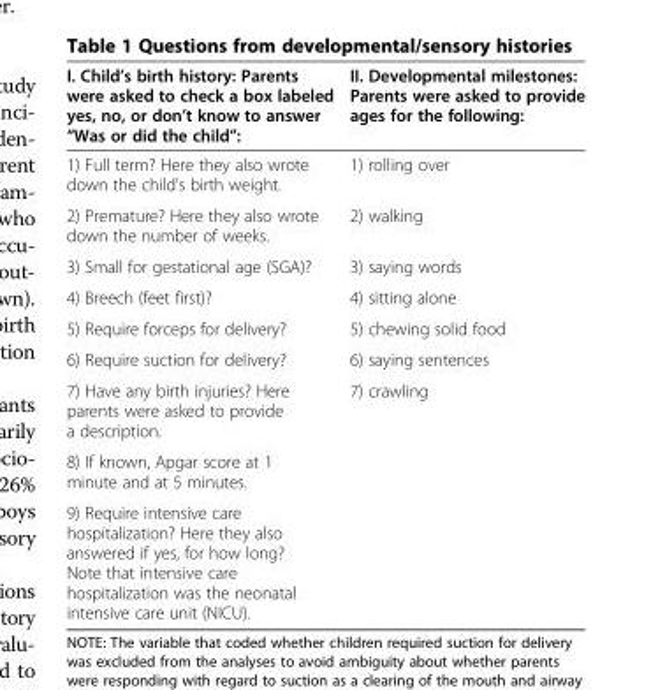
<table><thead><tr><td>I. Child’s birth history: Parents were asked to check a box labeled yes, no, or don’t know to answer “Was or did the child”:</td><td>II. Developmental milestones: Parents were asked to provide ages for the following:</td></tr></thead><tbody><tr><td>1) Full term? Here they also wrote down the child’s birth weight.</td><td>1) rolling over</td></tr><tr><td>2) Premature? Here they also wrote down the number of weeks.</td><td>2) walking</td></tr><tr><td>3) Small for gestational age (SGA)?</td><td>3) saying words</td></tr><tr><td>4) Breech (feet first)?</td><td>4) sitting alone</td></tr><tr><td>5) Require forceps for delivery?</td><td>5) chewing solid food</td></tr><tr><td>6) Require suction for delivery?</td><td>6) saying sentences</td></tr><tr><td>7) Have any birth injuries? Here parents were asked to provide a description.</td><td>7) crawling</td></tr><tr><td colspan="2">8) If known, Apgar score at 1 minute and at 5 minutes.</td></tr><tr><td>9) Require intensive care hospitalization? Here they also answered if yes, for how long? Note that intensive care hospitalization was the neonatal intensive care unit (NICU).</td><td></td></tr></tbody></table>